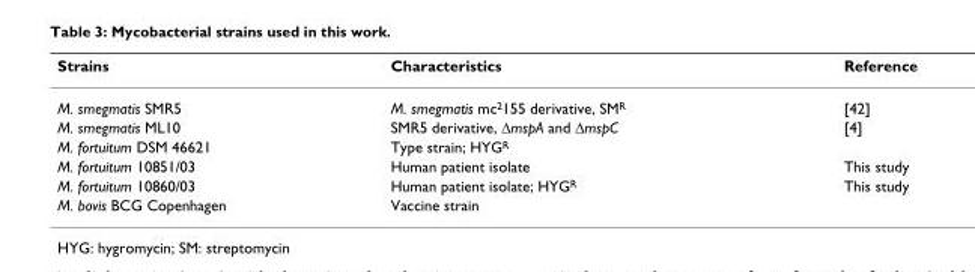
<table><thead><tr><td>Strains</td><td>Characteristics</td><td>Reference</td></tr></thead><tbody><tr><td>M. smegmatis SMR5</td><td>M. smegmatis mc<sup>2</sup>155 derivative, SM<sup>R</sup></td><td>[42]</td></tr><tr><td>M. smegmatis ML10</td><td>SMR5 derivative, ΔmspA and ΔmspC</td><td>[4]</td></tr><tr><td>M. fortuitum DSM 46621</td><td>Type strain; HYG<sup>R</sup></td><td></td></tr><tr><td>M. fortuitum 10851/03</td><td>Human patient isolate</td><td>This study</td></tr><tr><td>M. fortuitum 10860/03</td><td>Human patient isolate; HYG<sup>R</sup></td><td>This study</td></tr><tr><td>M. bovis BCG Copenhagen</td><td>Vaccine strain</td><td></td></tr></tbody></table>